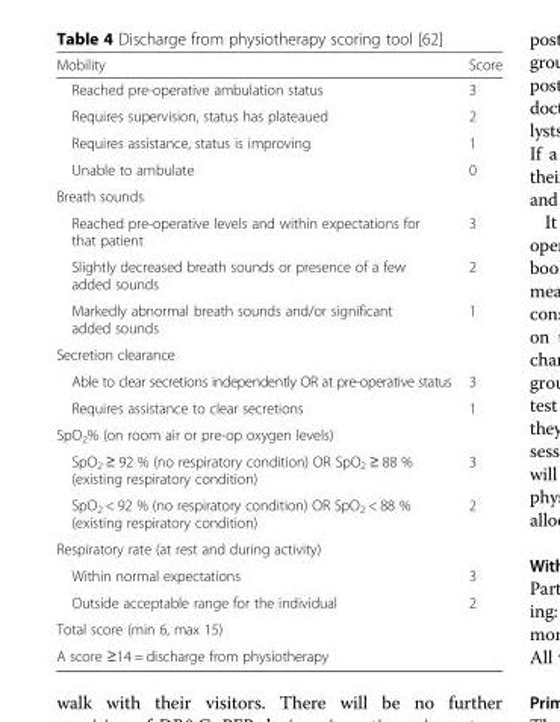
<table><thead><tr><td>Mobility</td><td>Score</td></tr></thead><tbody><tr><td>Reached pre-operative ambulation status</td><td>3</td></tr><tr><td>Requires supervision, status has plateaued</td><td>2</td></tr><tr><td>Requires assistance, status is improving</td><td>1</td></tr><tr><td>Unable to ambulate</td><td>0</td></tr><tr><td colspan="2">Breath sounds</td></tr><tr><td>Reached pre-operative levels and within expectations for that patient</td><td>3</td></tr><tr><td>Slightly decreased breath sounds or presence of a few added sounds</td><td>2</td></tr><tr><td>Markedly abnormal breath sounds and/or significant added sounds</td><td>1</td></tr><tr><td colspan="2">Secretion clearance</td></tr><tr><td>Able to clear secretions independently OR at pre-operative status</td><td>3</td></tr><tr><td>Requires assistance to clear secretions</td><td>1</td></tr><tr><td colspan="2">SpO<sub>2</sub>% (on room air or pre-op oxygen levels)</td></tr><tr><td>SpO<sub>2</sub> ≥ 92 % (no respiratory condition) OR SpO<sub>2</sub> ≥ 88 % (existing respiratory condition)</td><td>3</td></tr><tr><td>SpO<sub>2</sub> &lt; 92 % (no respiratory condition) OR SpO<sub>2</sub> &lt; 88 % (existing respiratory condition)</td><td>2</td></tr><tr><td colspan="2">Respiratory rate (at rest and during activity)</td></tr><tr><td>Within normal expectations</td><td>3</td></tr><tr><td>Outside acceptable range for the individual</td><td>2</td></tr><tr><td colspan="2">Total score (min 6, max 15)</td></tr><tr><td colspan="2">A score ≥14 = discharge from physiotherapy</td></tr></tbody></table>